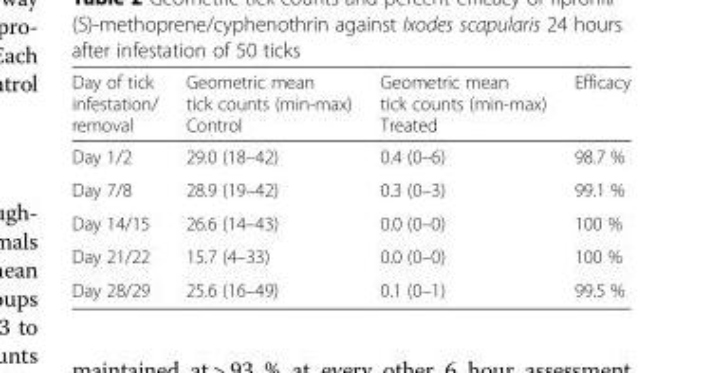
<table><thead><tr><td>Day of tick infestation/ removal</td><td>Geometric mean tick counts (min-max) Control</td><td>Geometric mean tick counts (min-max) Treated</td><td>Efficacy</td></tr></thead><tbody><tr><td>Day 1/2</td><td>29.0 (18–42)</td><td>0.4 (0–6)</td><td>98.7 %</td></tr><tr><td>Day 7/8</td><td>28.9 (19–42)</td><td>0.3 (0–3)</td><td>99.1 %</td></tr><tr><td>Day 14/15</td><td>26.6 (14–43)</td><td>0.0 (0–0)</td><td>100 %</td></tr><tr><td>Day 21/22</td><td>15.7 (4–33)</td><td>0.0 (0–0)</td><td>100 %</td></tr><tr><td>Day 28/29</td><td>25.6 (16–49)</td><td>0.1 (0–1)</td><td>99.5 %</td></tr></tbody></table>